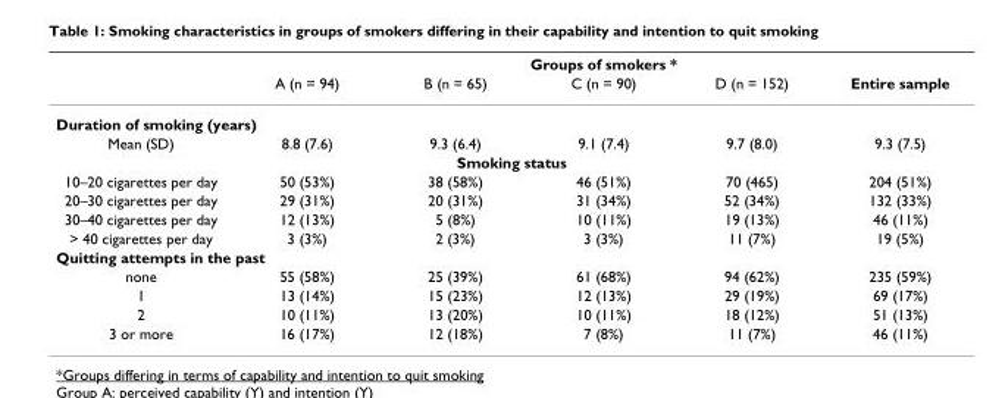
<table><thead><tr><td rowspan="2"></td><td colspan="5">Groups of smokers *</td></tr><tr><td>A (n = 94)</td><td>B (n = 65)</td><td>C (n = 90)</td><td>D (n = 152)</td><td>Entire sample</td></tr></thead><tbody><tr><td colspan="6">Duration of smoking (years)</td></tr><tr><td>Mean (SD)</td><td>8.8 (7.6)</td><td>9.3 (6.4)</td><td>9.1 (7.4)</td><td>9.7 (8.0)</td><td>9.3 (7.5)</td></tr><tr><td colspan="6">Smoking status</td></tr><tr><td>10–20 cigarettes per day</td><td>50 (53%)</td><td>38 (58%)</td><td>46 (51%)</td><td>70 (465)</td><td>204 (51%)</td></tr><tr><td>20–30 cigarettes per day</td><td>29 (31%)</td><td>20 (31%)</td><td>31 (34%)</td><td>52 (34%)</td><td>132 (33%)</td></tr><tr><td>30–40 cigarettes per day</td><td>12 (13%)</td><td>5 (8%)</td><td>10 (11%)</td><td>19 (13%)</td><td>46 (11%)</td></tr><tr><td>&gt; 40 cigarettes per day</td><td>3 (3%)</td><td>2 (3%)</td><td>3 (3%)</td><td>11 (7%)</td><td>19 (5%)</td></tr><tr><td colspan="6">Quitting attempts in the past</td></tr><tr><td>none</td><td>55 (58%)</td><td>25 (39%)</td><td>61 (68%)</td><td>94 (62%)</td><td>235 (59%)</td></tr><tr><td>1</td><td>13 (14%)</td><td>15 (23%)</td><td>12 (13%)</td><td>29 (19%)</td><td>69 (17%)</td></tr><tr><td>2</td><td>10 (11%)</td><td>13 (20%)</td><td>10 (11%)</td><td>18 (12%)</td><td>51 (13%)</td></tr><tr><td>3 or more</td><td>16 (17%)</td><td>12 (18%)</td><td>7 (8%)</td><td>11 (7%)</td><td>46 (11%)</td></tr></tbody></table>